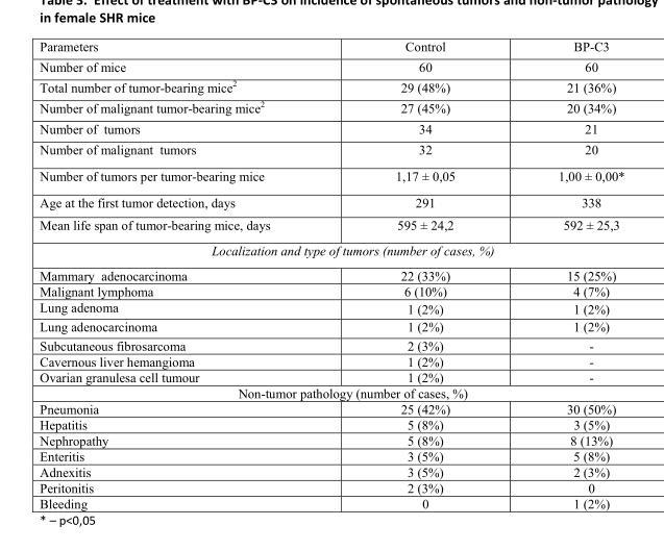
<table><thead><tr><td>Parameters</td><td>Control</td><td>BP-C3</td></tr></thead><tbody><tr><td>Number of mice</td><td>60</td><td>60</td></tr><tr><td>Total number of tumor-bearing mice<sup>2</sup></td><td>29 (48%)</td><td>21 (36%)</td></tr><tr><td>Number of malignant tumor-bearing mice<sup>2</sup></td><td>27 (45%)</td><td>20 (34%)</td></tr><tr><td>Number of tumors</td><td>34</td><td>21</td></tr><tr><td>Number of malignant tumors</td><td>32</td><td>20</td></tr><tr><td>Number of tumors per tumor-bearing mice</td><td>1,17 ± 0,05</td><td>1,00 ± 0,00*</td></tr><tr><td>Age at the first tumor detection, days</td><td>291</td><td>338</td></tr><tr><td>Mean life span of tumor-bearing mice, days</td><td>595 ± 24,2</td><td>592 ± 25,3</td></tr><tr><td colspan="3">Localization and type of tumors (number of cases, %)</td></tr><tr><td>Mammary adenocarcinoma</td><td>22 (33%)</td><td>15 (25%)</td></tr><tr><td>Malignant lymphoma</td><td>6 (10%)</td><td>4 (7%)</td></tr><tr><td>Lung adenoma</td><td>1 (2%)</td><td>1 (2%)</td></tr><tr><td>Lung adenocarcinoma</td><td>1 (2%)</td><td>1 (2%)</td></tr><tr><td>Subcutaneous fibrosarcoma</td><td>2 (3%)</td><td>-</td></tr><tr><td>Cavernous liver hemangioma</td><td>1 (2%)</td><td>-</td></tr><tr><td>Ovarian granulesa cell tumour</td><td>1 (2%)</td><td>-</td></tr><tr><td colspan="3">Non-tumor pathology (number of cases, %)</td></tr><tr><td>Pneumonia</td><td>25 (42%)</td><td>30 (50%)</td></tr><tr><td>Hepatitis</td><td>5 (8%)</td><td>3 (5%)</td></tr><tr><td>Nephropathy</td><td>5 (8%)</td><td>8 (13%)</td></tr><tr><td>Enteritis</td><td>3 (5%)</td><td>5 (8%)</td></tr><tr><td>Adnexitis</td><td>3 (5%)</td><td>2 (3%)</td></tr><tr><td>Peritonitis</td><td>2 (3%)</td><td>0</td></tr><tr><td>Bleeding</td><td>0</td><td>1 (2%)</td></tr></tbody></table>